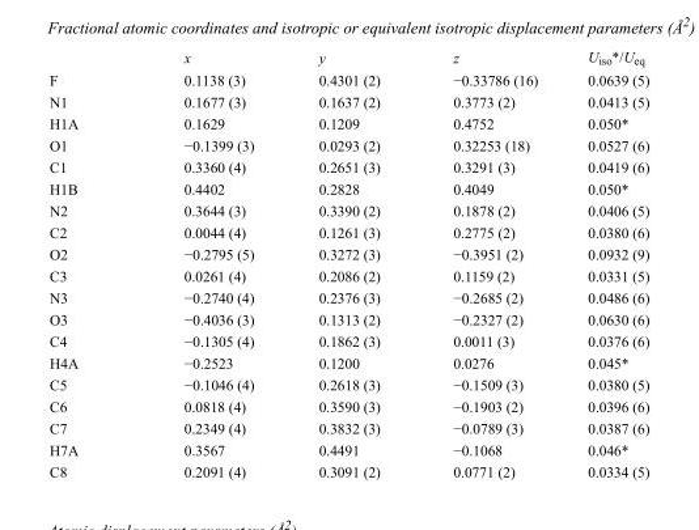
<table><thead><tr><td></td><td>x</td><td>y</td><td>z</td><td>U<sub>iso</sub>*/U<sub>eq</sub></td></tr></thead><tbody><tr><td>F</td><td>0.1138 (3)</td><td>0.4301 (2)</td><td>−0.33786 (16)</td><td>0.0639 (5)</td></tr><tr><td>N1</td><td>0.1677 (3)</td><td>0.1637 (2)</td><td>0.3773 (2)</td><td>0.0413 (5)</td></tr><tr><td>H1A</td><td>0.1629</td><td>0.1209</td><td>0.4752</td><td>0.050*</td></tr><tr><td>O1</td><td>−0.1399 (3)</td><td>0.0293 (2)</td><td>0.32253 (18)</td><td>0.0527 (6)</td></tr><tr><td>C1</td><td>0.3360 (4)</td><td>0.2651 (3)</td><td>0.3291 (3)</td><td>0.0419 (6)</td></tr><tr><td>H1B</td><td>0.4402</td><td>0.2828</td><td>0.4049</td><td>0.050*</td></tr><tr><td>N2</td><td>0.3644 (3)</td><td>0.3390 (2)</td><td>0.1878 (2)</td><td>0.0406 (5)</td></tr><tr><td>C2</td><td>0.0044 (4)</td><td>0.1261 (3)</td><td>0.2775 (2)</td><td>0.0380 (6)</td></tr><tr><td>O2</td><td>−0.2795 (5)</td><td>0.3272 (3)</td><td>−0.3951 (2)</td><td>0.0932 (9)</td></tr><tr><td>C3</td><td>0.0261 (4)</td><td>0.2086 (2)</td><td>0.1159 (2)</td><td>0.0331 (5)</td></tr><tr><td>N3</td><td>−0.2740 (4)</td><td>0.2376 (3)</td><td>−0.2685 (2)</td><td>0.0486 (6)</td></tr><tr><td>O3</td><td>−0.4036 (3)</td><td>0.1313 (2)</td><td>−0.2327 (2)</td><td>0.0630 (6)</td></tr><tr><td>C4</td><td>−0.1305 (4)</td><td>0.1862 (3)</td><td>0.0011 (3)</td><td>0.0376 (6)</td></tr><tr><td>H4A</td><td>−0.2523</td><td>0.1200</td><td>0.0276</td><td>0.045*</td></tr><tr><td>C5</td><td>−0.1046 (4)</td><td>0.2618 (3)</td><td>−0.1509 (3)</td><td>0.0380 (5)</td></tr><tr><td>C6</td><td>0.0818 (4)</td><td>0.3590 (3)</td><td>−0.1903 (2)</td><td>0.0396 (6)</td></tr><tr><td>C7</td><td>0.2349 (4)</td><td>0.3832 (3)</td><td>−0.0789 (3)</td><td>0.0387 (6)</td></tr><tr><td>H7A</td><td>0.3567</td><td>0.4491</td><td>−0.1068</td><td>0.046*</td></tr><tr><td>C8</td><td>0.2091 (4)</td><td>0.3091 (2)</td><td>0.0771 (2)</td><td>0.0334 (5)</td></tr></tbody></table>